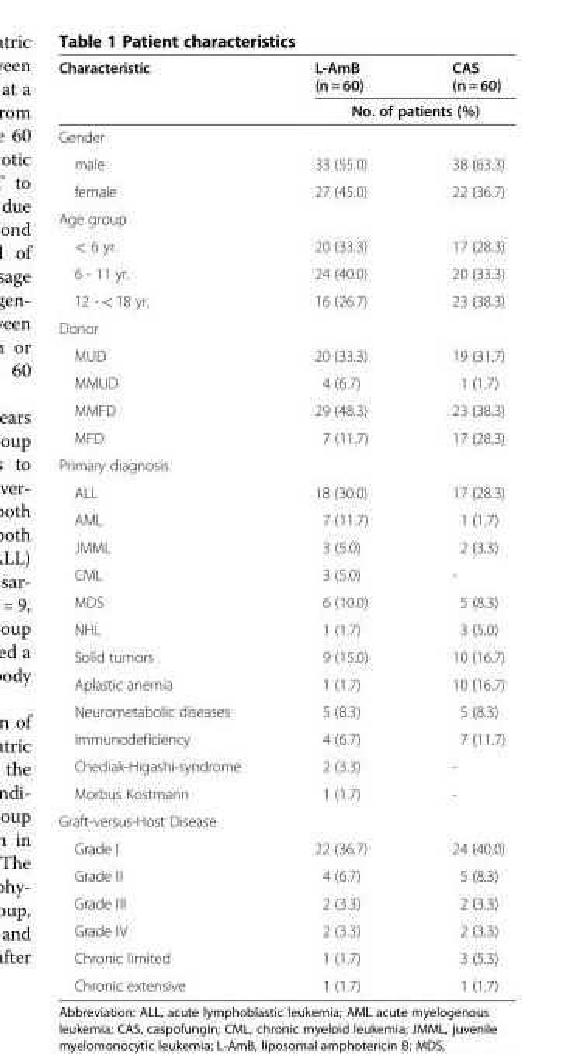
<table><thead><tr><td rowspan="2">Characteristic</td><td>L-AmB (n = 60)</td><td>CAS (n = 60)</td></tr><tr><td colspan="2">No. of patients (%)</td></tr></thead><tbody><tr><td colspan="3">Gender</td></tr><tr><td>male</td><td>33 (55.0)</td><td>38 (63.3)</td></tr><tr><td>female</td><td>27 (45.0)</td><td>22 (36.7)</td></tr><tr><td colspan="3">Age group</td></tr><tr><td>&lt; 6 yr.</td><td>20 (33.3)</td><td>17 (28.3)</td></tr><tr><td>6 - 11 yr.</td><td>24 (40.0)</td><td>20 (33.3)</td></tr><tr><td>12 - &lt; 18 yr.</td><td>16 (26.7)</td><td>23 (38.3)</td></tr><tr><td colspan="3">Donor</td></tr><tr><td>MUD</td><td>20 (33.3)</td><td>19 (31.7)</td></tr><tr><td>MMUD</td><td>4 (6.7)</td><td>1 (1.7)</td></tr><tr><td>MMFD</td><td>29 (48.3)</td><td>23 (38.3)</td></tr><tr><td>MFD</td><td>7 (11.7)</td><td>17 (28.3)</td></tr><tr><td colspan="3">Primary diagnosis</td></tr><tr><td>ALL</td><td>18 (30.0)</td><td>17 (28.3)</td></tr><tr><td>AML</td><td>7 (11.7)</td><td>1 (1.7)</td></tr><tr><td>JMML</td><td>3 (5.0)</td><td>2 (3.3)</td></tr><tr><td>CML</td><td>3 (5.0)</td><td>-</td></tr><tr><td>MDS</td><td>6 (10.0)</td><td>5 (8.3)</td></tr><tr><td>NHL</td><td>1 (1.7)</td><td>3 (5.0)</td></tr><tr><td>Solid tumors</td><td>9 (15.0)</td><td>10 (16.7)</td></tr><tr><td>Aplastic anemia</td><td>1 (1.7)</td><td>10 (16.7)</td></tr><tr><td>Neurometabolic diseases</td><td>5 (8.3)</td><td>5 (8.3)</td></tr><tr><td>Immunodeficiency</td><td>4 (6.7)</td><td>7 (11.7)</td></tr><tr><td>Chediak-Higashi-syndrome</td><td>2 (3.3)</td><td>-</td></tr><tr><td>Morbus Kostmann</td><td>1 (1.7)</td><td>-</td></tr><tr><td colspan="3">Graft-versus-Host Disease</td></tr><tr><td>Grade I</td><td>22 (36.7)</td><td>24 (40.0)</td></tr><tr><td>Grade II</td><td>4 (6.7)</td><td>5 (8.3)</td></tr><tr><td>Grade III</td><td>2 (3.3)</td><td>2 (3.3)</td></tr><tr><td>Grade IV</td><td>2 (3.3)</td><td>2 (3.3)</td></tr><tr><td>Chronic limited</td><td>1 (1.7)</td><td>3 (5.3)</td></tr><tr><td>Chronic extensive</td><td>1 (1.7)</td><td>1 (1.7)</td></tr></tbody></table>